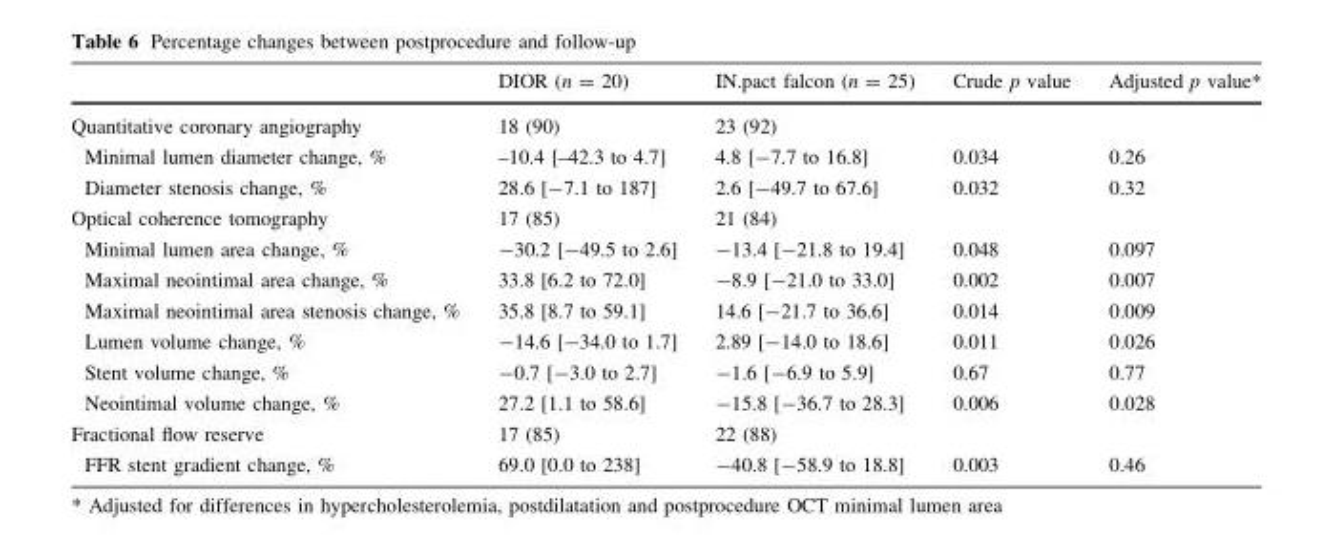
<table><thead><tr><td></td><td>DIOR (n = 20)</td><td>IN.pact falcon (n = 25)</td><td>Crude p value</td><td>Adjusted p value*</td></tr></thead><tbody><tr><td>Quantitative coronary angiography</td><td>18 (90)</td><td>23 (92)</td><td></td><td></td></tr><tr><td>Minimal lumen diameter change, %</td><td>–10.4 [–42.3 to 4.7]</td><td>4.8 [-7.7 to 16.8]</td><td>0.034</td><td>0.26</td></tr><tr><td>Diameter stenosis change, %</td><td>28.6 [-7.1 to 187]</td><td>2.6 [-49.7 to 67.6]</td><td>0.032</td><td>0.32</td></tr><tr><td>Optical coherence tomography</td><td>17 (85)</td><td>21 (84)</td><td></td><td></td></tr><tr><td>Minimal lumen area change, %</td><td>-30.2 [-49.5 to 2.6]</td><td>-13.4 [-21.8 to 19.4]</td><td>0.048</td><td>0.097</td></tr><tr><td>Maximal neointimal area change, %</td><td>33.8 [6.2 to 72.0]</td><td>-8.9 [-21.0 to 33.0]</td><td>0.002</td><td>0.007</td></tr><tr><td>Maximal neointimal area stenosis change, %</td><td>35.8 [8.7 to 59.1]</td><td>14.6 [-21.7 to 36.6]</td><td>0.014</td><td>0.009</td></tr><tr><td>Lumen volume change, %</td><td>-14.6 [-34.0 to 1.7]</td><td>2.89 [-14.0 to 18.6]</td><td>0.011</td><td>0.026</td></tr><tr><td>Stent volume change, %</td><td>-0.7 [-3.0 to 2.7]</td><td>-1.6 [-6.9 to 5.9]</td><td>0.67</td><td>0.77</td></tr><tr><td>Neointimal volume change, %</td><td>27.2 [1.1 to 58.6]</td><td>-15.8 [-36.7 to 28.3]</td><td>0.006</td><td>0.028</td></tr><tr><td>Fractional flow reserve</td><td>17 (85)</td><td>22 (88)</td><td></td><td></td></tr><tr><td>FFR stent gradient change, %</td><td>69.0 [0.0 to 238]</td><td>-40.8 [-58.9 to 18.8]</td><td>0.003</td><td>0.46</td></tr></tbody></table>